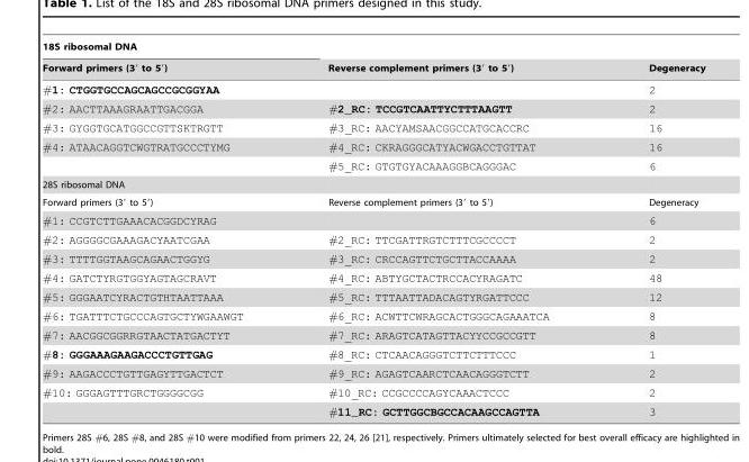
<table><thead><tr><td rowspan="2">18S ribosomal DNA Forward primers (3′ to 5′)</td><td rowspan="2">Reverse complement primers (3′ to 5′)</td><td rowspan="2">Degeneracy</td></tr><tr></tr></thead><tbody><tr><td>#1: CTGGTGCCAGCAGCCGCGGYAA</td><td></td><td>2</td></tr><tr><td>#2: AACTTAAAGRAATTGACGGA</td><td>#2_RC: TCCGTCAATTYCTTTAAGTT</td><td>2</td></tr><tr><td>#3: GYGGTGCATGGCCGTTSKTRGTT</td><td>#3_RC: AACYAMSAACGGCCATGCACCRC</td><td>16</td></tr><tr><td rowspan="2">#4: ATAACAGGTCWGTRATGCCCTYMG</td><td>#4_RC: CKRAGGGCATYACWGACCTGTTAT</td><td>16</td></tr><tr><td>#5_RC: GTGTGYACAAAGGBCAGGGAC</td><td>6</td></tr><tr><td colspan="3">28S ribosomal DNA</td></tr><tr><td>Forward primers (3′ to 5′)</td><td>Reverse complement primers (3′ to 5′)</td><td>Degeneracy</td></tr><tr><td>#1: CCGTCTTGAAACACGGDCYRAG</td><td></td><td>6</td></tr><tr><td>#2: AGGGGCGAAAGACYAATCGAA</td><td>#2_RC: TTCGATTRGTCTTTCGCCCCT</td><td>2</td></tr><tr><td>#3: TTTTGGTAAGCAGAACTGGYG</td><td>#3_RC: CRCCAGTTCTGCTTACCAAAA</td><td>2</td></tr><tr><td>#4: GATCTYRGTGGYAGTAGCRAVT</td><td>#4_RC: ABTYGCTACTRCCACYRAGATC</td><td>48</td></tr><tr><td>#5: GGGAATCYRACTGTHTAATTAAA</td><td>#5_RC: TTTAATTADACAGTYRGATTCCC</td><td>12</td></tr><tr><td>#6: TGATTTCTGCCCAGTGCTYWGAAWGT</td><td>#6_RC: ACWTTCWRAGCACTGGGCAGAAATCA</td><td>8</td></tr><tr><td>#7: AACGGCGGRRGTAACTATGACTYT</td><td>#7_RC: ARAGTCATAGTTACYYCCGCCGTT</td><td>8</td></tr><tr><td>#8: GGGAAAGAAGACCCTGTTGAG</td><td>#8_RC: CTCAACAGGGTCTTCTTTCCC</td><td>1</td></tr><tr><td>#9: AAGACCCTGTTGAGYTTGACTCT</td><td>#9_RC: AGAGTCAARCTCAACAGGGTCTT</td><td>2</td></tr><tr><td rowspan="2">#10: GGGAGTTTGRCTGGGGCGG</td><td>#10_RC: CCGCCCCAGYCAAACTCCC</td><td>2</td></tr><tr><td>#11_RC: GCTTGGCBGCCACAAGCCAGTTA</td><td>3</td></tr></tbody></table>